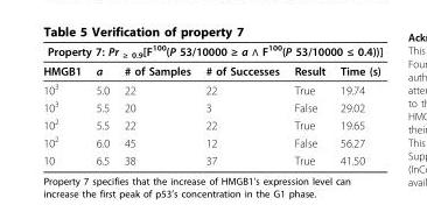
<table><thead><tr><td colspan="6">Property 7: Pr <sub>≥ 0.9</sub>[F<sup>100</sup>(P 53/10000 ≥ a ∧ F<sup>100</sup>(P 53/10000 ≤ 0.4))]</td></tr><tr><td>HMGB1</td><td>a</td><td># of Samples</td><td># of Successes</td><td>Result</td><td>Time (s)</td></tr></thead><tbody><tr><td>10<sup>3</sup></td><td>5.0</td><td>22</td><td>22</td><td>True</td><td>19.74</td></tr><tr><td>10<sup>3</sup></td><td>5.5</td><td>20</td><td>3</td><td>False</td><td>29.02</td></tr><tr><td>10<sup>2</sup></td><td>5.5</td><td>22</td><td>22</td><td>True</td><td>19.65</td></tr><tr><td>10<sup>2</sup></td><td>6.0</td><td>45</td><td>12</td><td>False</td><td>56.27</td></tr><tr><td>10</td><td>6.5</td><td>38</td><td>37</td><td>True</td><td>41.50</td></tr></tbody></table>